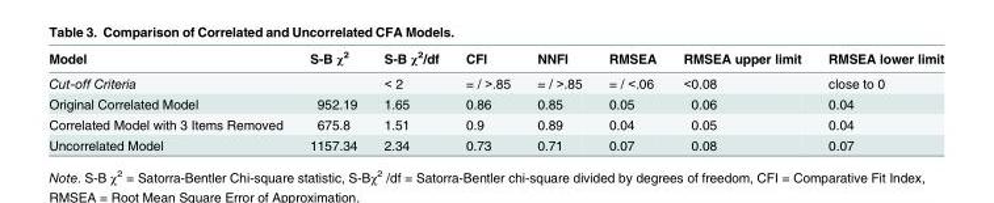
<table><thead><tr><td>Model</td><td>S-B χ<sup>2</sup></td><td>S-B χ<sup>2</sup>/df</td><td>CFI</td><td>NNFI</td><td>RMSEA</td><td>RMSEA upper limit</td><td>RMSEA lower limit</td></tr></thead><tbody><tr><td>Cut-off Criteria</td><td></td><td>&lt; 2</td><td>= / &gt;.85</td><td>= / &gt;.85</td><td>= / &lt;.06</td><td>&lt;0.08</td><td>close to 0</td></tr><tr><td>Original Correlated Model</td><td>952.19</td><td>1.65</td><td>0.86</td><td>0.85</td><td>0.05</td><td>0.06</td><td>0.04</td></tr><tr><td>Correlated Model with 3 Items Removed</td><td>675.8</td><td>1.51</td><td>0.9</td><td>0.89</td><td>0.04</td><td>0.05</td><td>0.04</td></tr><tr><td>Uncorrelated Model</td><td>1157.34</td><td>2.34</td><td>0.73</td><td>0.71</td><td>0.07</td><td>0.08</td><td>0.07</td></tr></tbody></table>